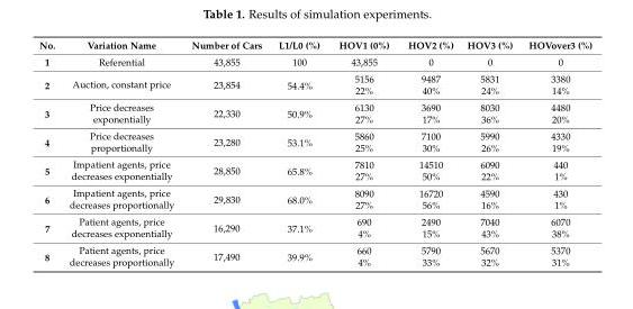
<table><thead><tr><td>No.</td><td>Variation Name</td><td>Number of Cars</td><td>L1/L0 (%)</td><td>HOV1 (0%)</td><td>HOV2 (%)</td><td>HOV3 (%)</td><td>HOVover3 (%)</td></tr></thead><tbody><tr><td>1</td><td>Referential</td><td>43,855</td><td>100</td><td>43,855</td><td>0</td><td>0</td><td>0</td></tr><tr><td rowspan="2">2</td><td rowspan="2">Auction, constant price</td><td rowspan="2">23,854</td><td rowspan="2">54.4%</td><td>5156</td><td>9487</td><td>5831</td><td>3380</td></tr><tr><td>22%</td><td>40%</td><td>24%</td><td>14%</td></tr><tr><td rowspan="2">3</td><td rowspan="2">Price decreases exponentially</td><td rowspan="2">22,330</td><td rowspan="2">50.9%</td><td>6130</td><td>3690</td><td>8030</td><td>4480</td></tr><tr><td>27%</td><td>17%</td><td>36%</td><td>20%</td></tr><tr><td rowspan="2">4</td><td rowspan="2">Price decreases proportionally</td><td rowspan="2">23,280</td><td rowspan="2">53.1%</td><td>5860</td><td>7100</td><td>5990</td><td>4330</td></tr><tr><td>25%</td><td>30%</td><td>26%</td><td>19%</td></tr><tr><td rowspan="2">5</td><td rowspan="2">Impatient agents, price decreases exponentially</td><td rowspan="2">28,850</td><td rowspan="2">65.8%</td><td>7810</td><td>14510</td><td>6090</td><td>440</td></tr><tr><td>27%</td><td>50%</td><td>22%</td><td>1%</td></tr><tr><td rowspan="2">6</td><td rowspan="2">Impatient agents, price decreases proportionally</td><td rowspan="2">29,830</td><td rowspan="2">68.0%</td><td>8090</td><td>16720</td><td>4590</td><td>430</td></tr><tr><td>27%</td><td>56%</td><td>16%</td><td>1%</td></tr><tr><td rowspan="2">7</td><td rowspan="2">Patient agents, price decreases exponentially</td><td rowspan="2">16,290</td><td rowspan="2">37.1%</td><td>690</td><td>2490</td><td>7040</td><td>6070</td></tr><tr><td>4%</td><td>15%</td><td>43%</td><td>38%</td></tr><tr><td rowspan="2">8</td><td rowspan="2">Patient agents, price decreases proportionally</td><td rowspan="2">17,490</td><td rowspan="2">39.9%</td><td>660</td><td>5790</td><td>5670</td><td>5370</td></tr><tr><td>4%</td><td>33%</td><td>32%</td><td>31%</td></tr></tbody></table>